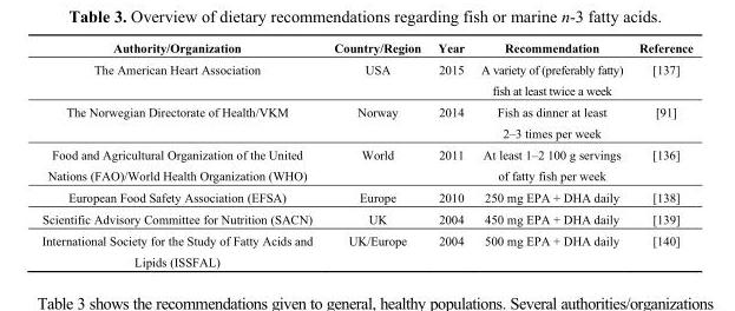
<table><thead><tr><td>Authority/Organization</td><td>Country/Region</td><td>Year</td><td>Recommendation</td><td>Reference</td></tr></thead><tbody><tr><td>The American Heart Association</td><td>USA</td><td>2015</td><td>A variety of (preferably fatty) fish at least twice a week</td><td>[137]</td></tr><tr><td>The Norwegian Directorate of Health/VKM</td><td>Norway</td><td>2014</td><td>Fish as dinner at least 2–3 times per week</td><td>[91]</td></tr><tr><td>Food and Agricultural Organization of the United Nations (FAO)/World Health Organization (WHO)</td><td>World</td><td>2011</td><td>At least 1–2 100 g servings of fatty fish per week</td><td>[136]</td></tr><tr><td>European Food Safety Association (EFSA)</td><td>Europe</td><td>2010</td><td>250 mg EPA + DHA daily</td><td>[138]</td></tr><tr><td>Scientific Advisory Committee for Nutrition (SACN)</td><td>UK</td><td>2004</td><td>450 mg EPA + DHA daily</td><td>[139]</td></tr><tr><td>International Society for the Study of Fatty Acids and Lipids (ISSFAL)</td><td>UK/Europe</td><td>2004</td><td>500 mg EPA + DHA daily</td><td>[140]</td></tr></tbody></table>